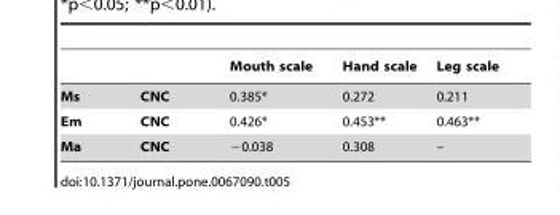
<table><thead><tr><td></td><td></td><td>Mouth scale</td><td>Hand scale</td><td>Leg scale</td></tr></thead><tbody><tr><td>Ms</td><td>CNC</td><td>0.385*</td><td>0.272</td><td>0.211</td></tr><tr><td>Em</td><td>CNC</td><td>0.426*</td><td>0.453**</td><td>0.463**</td></tr><tr><td>Ma</td><td>CNC</td><td>−0.038</td><td>0.308</td><td>–</td></tr></tbody></table>